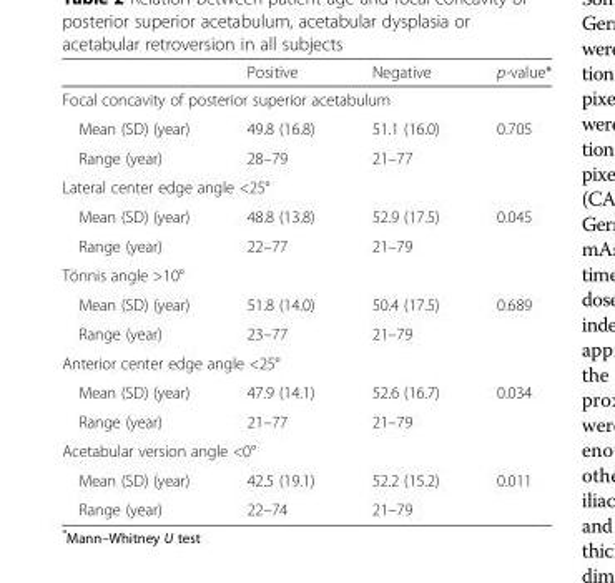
<table><thead><tr><td></td><td>Positive</td><td>Negative</td><td>p-value*</td></tr></thead><tbody><tr><td colspan="4">Focal concavity of posterior superior acetabulum</td></tr><tr><td>Mean (SD) (year)</td><td>49.8 (16.8)</td><td>51.1 (16.0)</td><td>0.705</td></tr><tr><td>Range (year)</td><td>28–79</td><td>21–77</td><td></td></tr><tr><td colspan="4">Lateral center edge angle &lt;25°</td></tr><tr><td>Mean (SD) (year)</td><td>48.8 (13.8)</td><td>52.9 (17.5)</td><td>0.045</td></tr><tr><td>Range (year)</td><td>22–77</td><td>21–79</td><td></td></tr><tr><td colspan="4">Tönnis angle &gt;10°</td></tr><tr><td>Mean (SD) (year)</td><td>51.8 (14.0)</td><td>50.4 (17.5)</td><td>0.689</td></tr><tr><td>Range (year)</td><td>23–77</td><td>21–79</td><td></td></tr><tr><td colspan="4">Anterior center edge angle &lt;25°</td></tr><tr><td>Mean (SD) (year)</td><td>47.9 (14.1)</td><td>52.6 (16.7)</td><td>0.034</td></tr><tr><td>Range (year)</td><td>21–77</td><td>21–79</td><td></td></tr><tr><td colspan="4">Acetabular version angle &lt;0°</td></tr><tr><td>Mean (SD) (year)</td><td>42.5 (19.1)</td><td>52.2 (15.2)</td><td>0.011</td></tr><tr><td>Range (year)</td><td>22–74</td><td>21–79</td><td></td></tr></tbody></table>